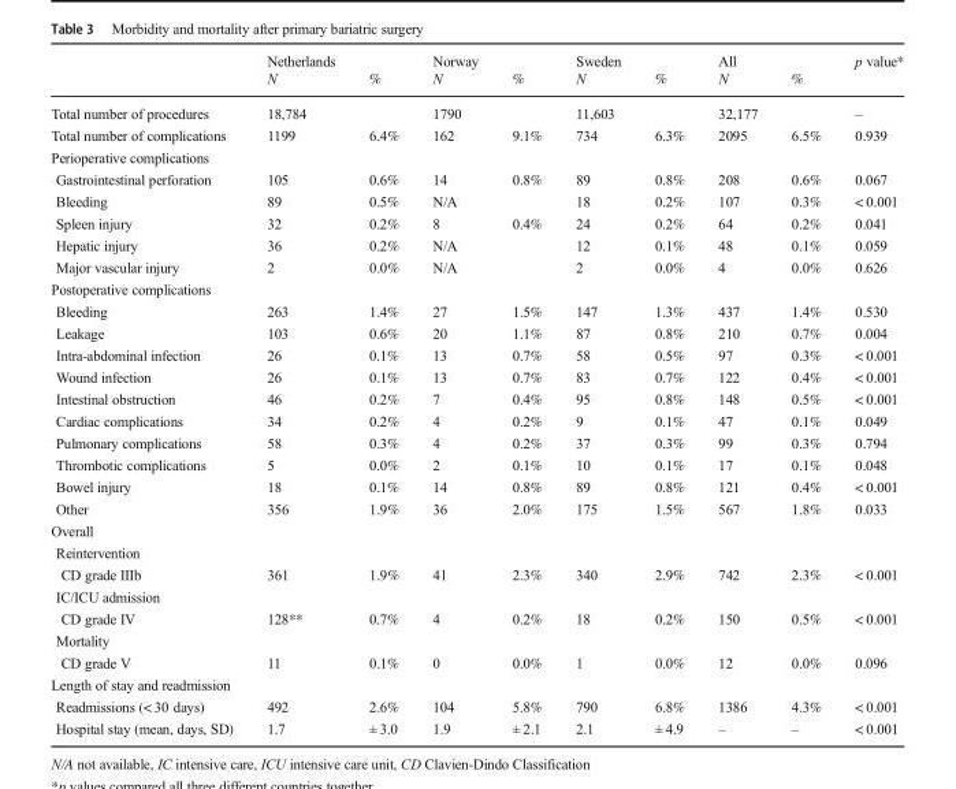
<table><thead><tr><td rowspan="2"></td><td rowspan="2">Netherlands N</td><td rowspan="2">%</td><td rowspan="2">Norway N</td><td rowspan="2">%</td><td rowspan="2">Sweden N</td><td rowspan="2">%</td><td rowspan="2">All N</td><td rowspan="2">%</td><td rowspan="2">p value*</td></tr><tr></tr></thead><tbody><tr><td>Total number of procedures</td><td>18,784</td><td></td><td>1790</td><td></td><td>11,603</td><td></td><td>32,177</td><td></td><td>–</td></tr><tr><td>Total number of complications</td><td>1199</td><td>6.4%</td><td>162</td><td>9.1%</td><td>734</td><td>6.3%</td><td>2095</td><td>6.5%</td><td>0.939</td></tr><tr><td colspan="10">Perioperative complications</td></tr><tr><td>Gastrointestinal perforation</td><td>105</td><td>0.6%</td><td>14</td><td>0.8%</td><td>89</td><td>0.8%</td><td>208</td><td>0.6%</td><td>0.067</td></tr><tr><td>Bleeding</td><td>89</td><td>0.5%</td><td>N/A</td><td></td><td>18</td><td>0.2%</td><td>107</td><td>0.3%</td><td>&lt; 0.001</td></tr><tr><td>Spleen injury</td><td>32</td><td>0.2%</td><td>8</td><td>0.4%</td><td>24</td><td>0.2%</td><td>64</td><td>0.2%</td><td>0.041</td></tr><tr><td>Hepatic injury</td><td>36</td><td>0.2%</td><td>N/A</td><td></td><td>12</td><td>0.1%</td><td>48</td><td>0.1%</td><td>0.059</td></tr><tr><td>Major vascular injury</td><td>2</td><td>0.0%</td><td>N/A</td><td></td><td>2</td><td>0.0%</td><td>4</td><td>0.0%</td><td>0.626</td></tr><tr><td colspan="10">Postoperative complications</td></tr><tr><td>Bleeding</td><td>263</td><td>1.4%</td><td>27</td><td>1.5%</td><td>147</td><td>1.3%</td><td>437</td><td>1.4%</td><td>0.530</td></tr><tr><td>Leakage</td><td>103</td><td>0.6%</td><td>20</td><td>1.1%</td><td>87</td><td>0.8%</td><td>210</td><td>0.7%</td><td>0.004</td></tr><tr><td>Intra-abdominal infection</td><td>26</td><td>0.1%</td><td>13</td><td>0.7%</td><td>58</td><td>0.5%</td><td>97</td><td>0.3%</td><td>&lt; 0.001</td></tr><tr><td>Wound infection</td><td>26</td><td>0.1%</td><td>13</td><td>0.7%</td><td>83</td><td>0.7%</td><td>122</td><td>0.4%</td><td>&lt; 0.001</td></tr><tr><td>Intestinal obstruction</td><td>46</td><td>0.2%</td><td>7</td><td>0.4%</td><td>95</td><td>0.8%</td><td>148</td><td>0.5%</td><td>&lt; 0.001</td></tr><tr><td>Cardiac complications</td><td>34</td><td>0.2%</td><td>4</td><td>0.2%</td><td>9</td><td>0.1%</td><td>47</td><td>0.1%</td><td>0.049</td></tr><tr><td>Pulmonary complications</td><td>58</td><td>0.3%</td><td>4</td><td>0.2%</td><td>37</td><td>0.3%</td><td>99</td><td>0.3%</td><td>0.794</td></tr><tr><td>Thrombotic complications</td><td>5</td><td>0.0%</td><td>2</td><td>0.1%</td><td>10</td><td>0.1%</td><td>17</td><td>0.1%</td><td>0.048</td></tr><tr><td>Bowel injury</td><td>18</td><td>0.1%</td><td>14</td><td>0.8%</td><td>89</td><td>0.8%</td><td>121</td><td>0.4%</td><td>&lt; 0.001</td></tr><tr><td>Other</td><td>356</td><td>1.9%</td><td>36</td><td>2.0%</td><td>175</td><td>1.5%</td><td>567</td><td>1.8%</td><td>0.033</td></tr><tr><td colspan="10">Overall</td></tr><tr><td colspan="10">Reintervention</td></tr><tr><td>CD grade IIIb</td><td>361</td><td>1.9%</td><td>41</td><td>2.3%</td><td>340</td><td>2.9%</td><td>742</td><td>2.3%</td><td>&lt; 0.001</td></tr><tr><td colspan="10">IC/ICU admission</td></tr><tr><td>CD grade IV</td><td>128**</td><td>0.7%</td><td>4</td><td>0.2%</td><td>18</td><td>0.2%</td><td>150</td><td>0.5%</td><td>&lt; 0.001</td></tr><tr><td colspan="10">Mortality</td></tr><tr><td>CD grade V</td><td>11</td><td>0.1%</td><td>0</td><td>0.0%</td><td>1</td><td>0.0%</td><td>12</td><td>0.0%</td><td>0.096</td></tr><tr><td colspan="10">Length of stay and readmission</td></tr><tr><td>Readmissions (&lt; 30 days)</td><td>492</td><td>2.6%</td><td>104</td><td>5.8%</td><td>790</td><td>6.8%</td><td>1386</td><td>4.3%</td><td>&lt; 0.001</td></tr><tr><td>Hospital stay (mean, days, SD)</td><td>1.7</td><td>± 3.0</td><td>1.9</td><td>± 2.1</td><td>2.1</td><td>± 4.9</td><td>–</td><td>–</td><td>&lt; 0.001</td></tr></tbody></table>